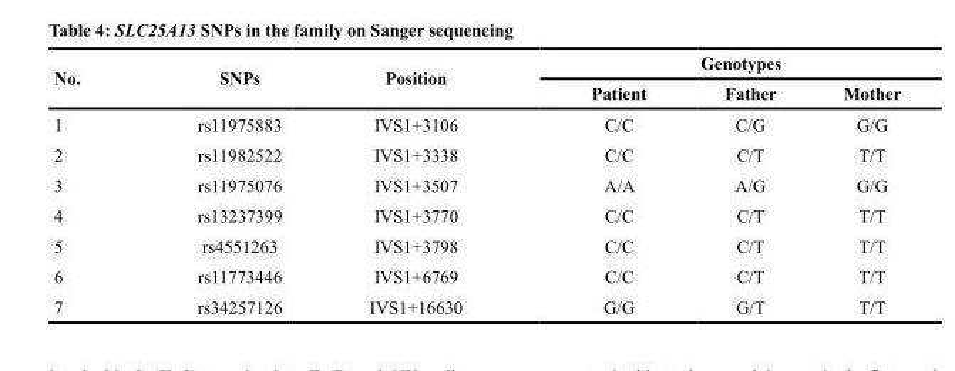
<table><thead><tr><td rowspan="2">No.</td><td rowspan="2">SNPs</td><td rowspan="2">Position</td><td colspan="3">Genotypes</td></tr><tr><td>Patient</td><td>Father</td><td>Mother</td></tr></thead><tbody><tr><td>1</td><td>rs11975883</td><td>IVS1+3106</td><td>C/C</td><td>C/G</td><td>G/G</td></tr><tr><td>2</td><td>rs11982522</td><td>IVS1+3338</td><td>C/C</td><td>C/T</td><td>T/T</td></tr><tr><td>3</td><td>rs11975076</td><td>IVS1+3507</td><td>A/A</td><td>A/G</td><td>G/G</td></tr><tr><td>4</td><td>rs13237399</td><td>IVS1+3770</td><td>C/C</td><td>C/T</td><td>T/T</td></tr><tr><td>5</td><td>rs4551263</td><td>IVS1+3798</td><td>C/C</td><td>C/T</td><td>T/T</td></tr><tr><td>6</td><td>rs11773446</td><td>IVS1+6769</td><td>C/C</td><td>C/T</td><td>T/T</td></tr><tr><td>7</td><td>rs34257126</td><td>IVS1+16630</td><td>G/G</td><td>G/T</td><td>T/T</td></tr></tbody></table>